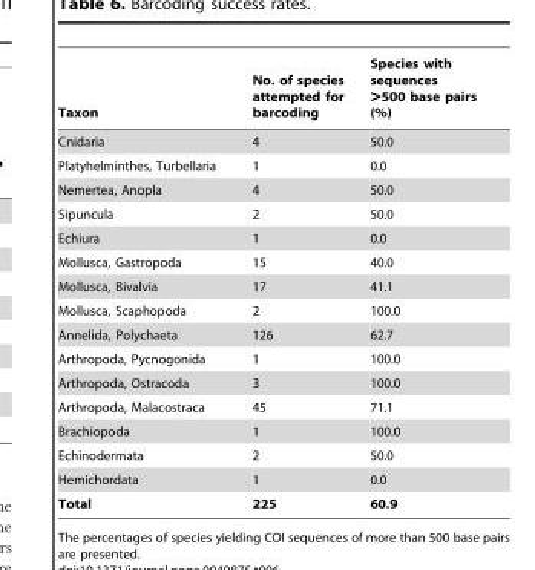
<table><thead><tr><td>Taxon</td><td>No. of species attempted for barcoding</td><td>Species with sequences &gt;500 base pairs (%)</td></tr></thead><tbody><tr><td>Cnidaria</td><td>4</td><td>50.0</td></tr><tr><td>Platyhelminthes, Turbellaria</td><td>1</td><td>0.0</td></tr><tr><td>Nemertea, Anopla</td><td>4</td><td>50.0</td></tr><tr><td>Sipuncula</td><td>2</td><td>50.0</td></tr><tr><td>Echiura</td><td>1</td><td>0.0</td></tr><tr><td>Mollusca, Gastropoda</td><td>15</td><td>40.0</td></tr><tr><td>Mollusca, Bivalvia</td><td>17</td><td>41.1</td></tr><tr><td>Mollusca, Scaphopoda</td><td>2</td><td>100.0</td></tr><tr><td>Annelida, Polychaeta</td><td>126</td><td>62.7</td></tr><tr><td>Arthropoda, Pycnogonida</td><td>1</td><td>100.0</td></tr><tr><td>Arthropoda, Ostracoda</td><td>3</td><td>100.0</td></tr><tr><td>Arthropoda, Malacostraca</td><td>45</td><td>71.1</td></tr><tr><td>Brachiopoda</td><td>1</td><td>100.0</td></tr><tr><td>Echinodermata</td><td>2</td><td>50.0</td></tr><tr><td>Hemichordata</td><td>1</td><td>0.0</td></tr><tr><td>Total</td><td>225</td><td>60.9</td></tr></tbody></table>